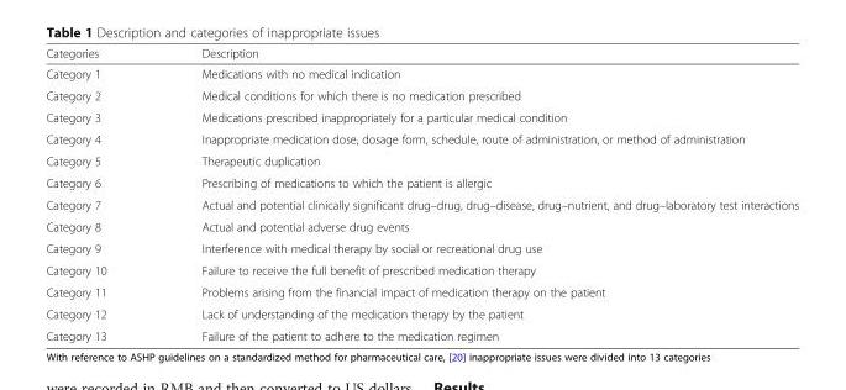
<table><thead><tr><td>Categories</td><td>Description</td></tr></thead><tbody><tr><td>Category 1</td><td>Medications with no medical indication</td></tr><tr><td>Category 2</td><td>Medical conditions for which there is no medication prescribed</td></tr><tr><td>Category 3</td><td>Medications prescribed inappropriately for a particular medical condition</td></tr><tr><td>Category 4</td><td>Inappropriate medication dose, dosage form, schedule, route of administration, or method of administration</td></tr><tr><td>Category 5</td><td>Therapeutic duplication</td></tr><tr><td>Category 6</td><td>Prescribing of medications to which the patient is allergic</td></tr><tr><td>Category 7</td><td>Actual and potential clinically significant drug–drug, drug–disease, drug–nutrient, and drug–laboratory test interactions</td></tr><tr><td>Category 8</td><td>Actual and potential adverse drug events</td></tr><tr><td>Category 9</td><td>Interference with medical therapy by social or recreational drug use</td></tr><tr><td>Category 10</td><td>Failure to receive the full benefit of prescribed medication therapy</td></tr><tr><td>Category 11</td><td>Problems arising from the financial impact of medication therapy on the patient</td></tr><tr><td>Category 12</td><td>Lack of understanding of the medication therapy by the patient</td></tr><tr><td>Category 13</td><td>Failure of the patient to adhere to the medication regimen</td></tr></tbody></table>